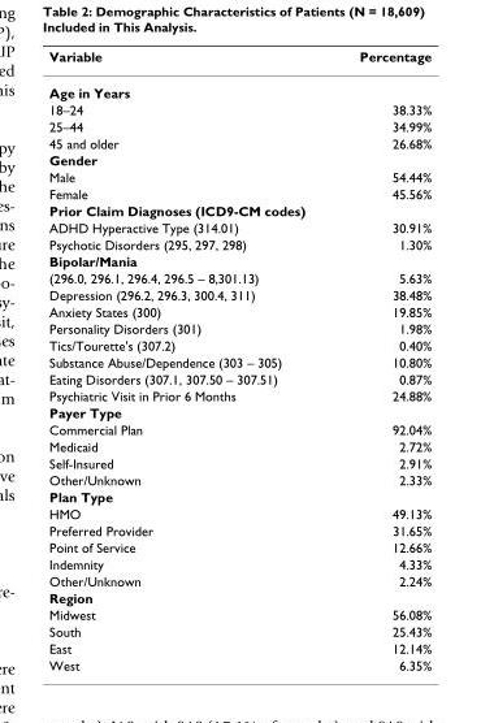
<table><thead><tr><td>Variable</td><td>Percentage</td></tr></thead><tbody><tr><td colspan="2">Age in Years</td></tr><tr><td>18–24</td><td>38.33%</td></tr><tr><td>25–44</td><td>34.99%</td></tr><tr><td>45 and older</td><td>26.68%</td></tr><tr><td colspan="2">Gender</td></tr><tr><td>Male</td><td>54.44%</td></tr><tr><td>Female</td><td>45.56%</td></tr><tr><td colspan="2">Prior Claim Diagnoses (ICD9-CM codes)</td></tr><tr><td>ADHD Hyperactive Type (314.01)</td><td>30.91%</td></tr><tr><td>Psychotic Disorders (295, 297, 298)</td><td>1.30%</td></tr><tr><td colspan="2">Bipolar/Mania</td></tr><tr><td>(296.0, 296.1, 296.4, 296.5 – 8,301.13)</td><td>5.63%</td></tr><tr><td>Depression (296.2, 296.3, 300.4, 311)</td><td>38.48%</td></tr><tr><td>Anxiety States (300)</td><td>19.85%</td></tr><tr><td>Personality Disorders (301)</td><td>1.98%</td></tr><tr><td>Tics/Tourette&#x27;s (307.2)</td><td>0.40%</td></tr><tr><td>Substance Abuse/Dependence (303 – 305)</td><td>10.80%</td></tr><tr><td>Eating Disorders (307.1, 307.50 – 307.51)</td><td>0.87%</td></tr><tr><td>Psychiatric Visit in Prior 6 Months</td><td>24.88%</td></tr><tr><td colspan="2">Payer Type</td></tr><tr><td>Commercial Plan</td><td>92.04%</td></tr><tr><td>Medicaid</td><td>2.72%</td></tr><tr><td>Self-Insured</td><td>2.91%</td></tr><tr><td>Other/Unknown</td><td>2.33%</td></tr><tr><td colspan="2">Plan Type</td></tr><tr><td>HMO</td><td>49.13%</td></tr><tr><td>Preferred Provider</td><td>31.65%</td></tr><tr><td>Point of Service</td><td>12.66%</td></tr><tr><td>Indemnity</td><td>4.33%</td></tr><tr><td>Other/Unknown</td><td>2.24%</td></tr><tr><td colspan="2">Region</td></tr><tr><td>Midwest</td><td>56.08%</td></tr><tr><td>South</td><td>25.43%</td></tr><tr><td>East</td><td>12.14%</td></tr><tr><td>West</td><td>6.35%</td></tr></tbody></table>